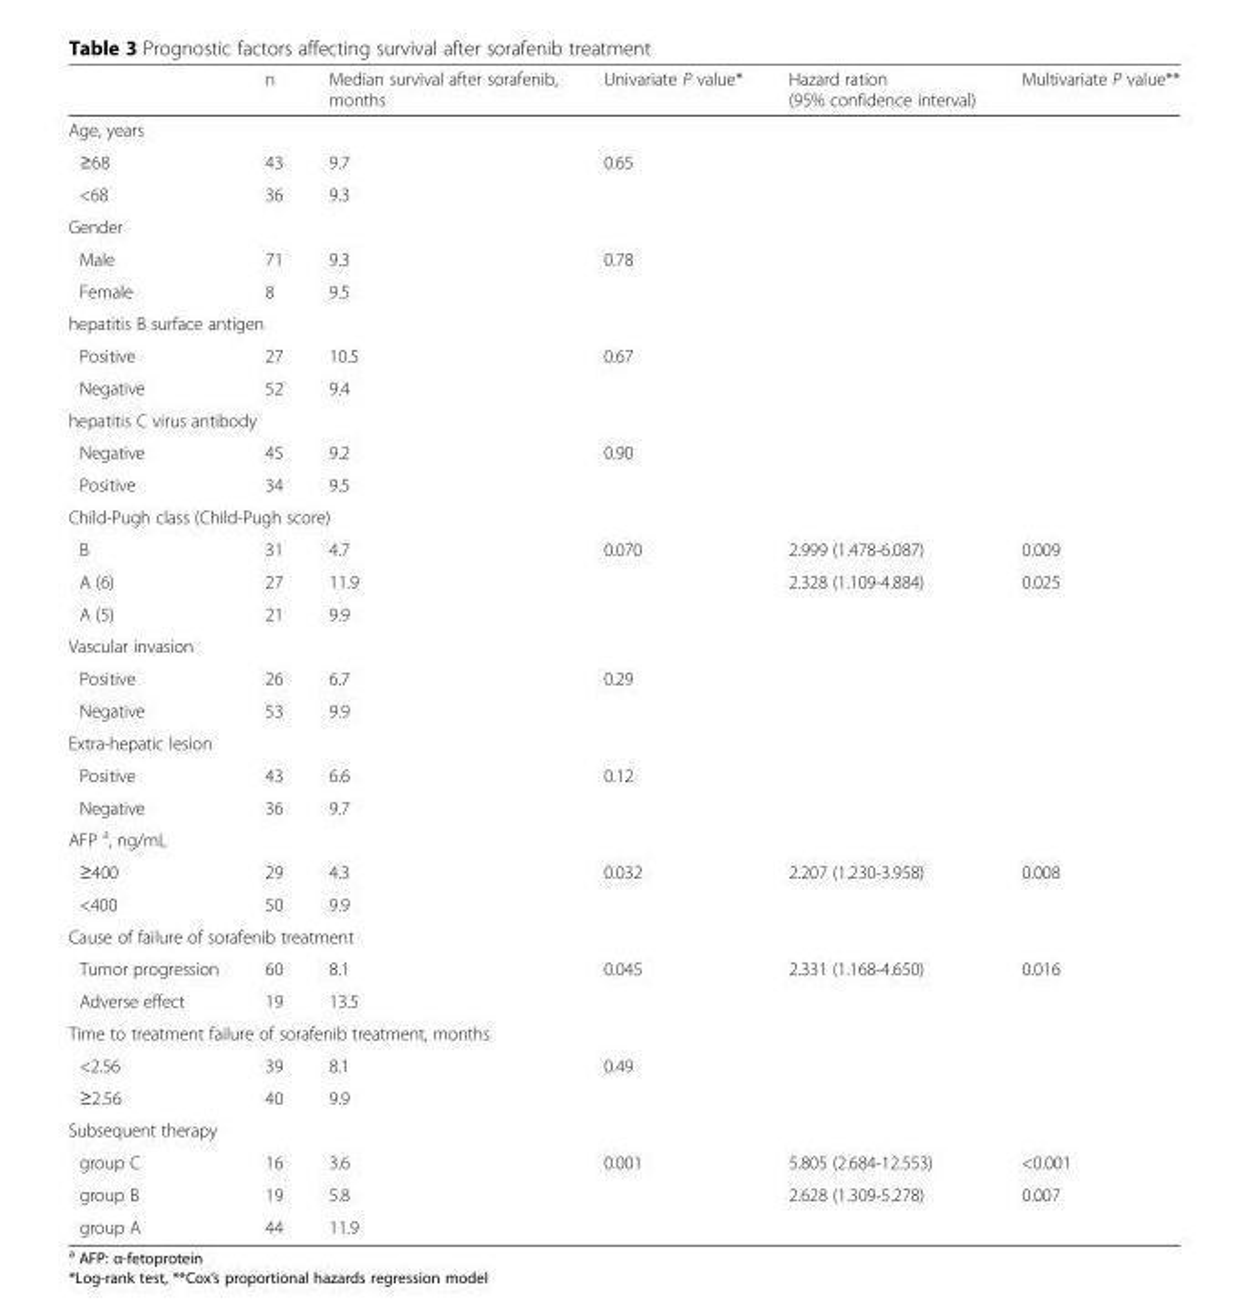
<table><thead><tr><td></td><td>n</td><td>Median survival after sorafenib, months</td><td>Univariate P value*</td><td>Hazard ration (95% confidence interval)</td><td>Multivariate P value**</td></tr></thead><tbody><tr><td colspan="6">Age, years</td></tr><tr><td>≥68</td><td>43</td><td>9.7</td><td>0.65</td><td></td><td></td></tr><tr><td>&lt;68</td><td>36</td><td>9.3</td><td></td><td></td><td></td></tr><tr><td colspan="6">Gender</td></tr><tr><td>Male</td><td>71</td><td>9.3</td><td>0.78</td><td></td><td></td></tr><tr><td>Female</td><td>8</td><td>9.5</td><td></td><td></td><td></td></tr><tr><td colspan="6">hepatitis B surface antigen</td></tr><tr><td>Positive</td><td>27</td><td>10.5</td><td>0.67</td><td></td><td></td></tr><tr><td>Negative</td><td>52</td><td>9.4</td><td></td><td></td><td></td></tr><tr><td colspan="6">hepatitis C virus antibody</td></tr><tr><td>Negative</td><td>45</td><td>9.2</td><td>0.90</td><td></td><td></td></tr><tr><td>Positive</td><td>34</td><td>9.5</td><td></td><td></td><td></td></tr><tr><td colspan="6">Child-Pugh class (Child-Pugh score)</td></tr><tr><td>B</td><td>31</td><td>4.7</td><td>0.070</td><td>2.999 (1.478-6.087)</td><td>0.009</td></tr><tr><td>A (6)</td><td>27</td><td>11.9</td><td></td><td>2.328 (1.109-4.884)</td><td>0.025</td></tr><tr><td>A (5)</td><td>21</td><td>9.9</td><td></td><td></td><td></td></tr><tr><td colspan="6">Vascular invasion</td></tr><tr><td>Positive</td><td>26</td><td>6.7</td><td>0.29</td><td></td><td></td></tr><tr><td>Negative</td><td>53</td><td>9.9</td><td></td><td></td><td></td></tr><tr><td colspan="6">Extra-hepatic lesion</td></tr><tr><td>Positive</td><td>43</td><td>6.6</td><td>0.12</td><td></td><td></td></tr><tr><td>Negative</td><td>36</td><td>9.7</td><td></td><td></td><td></td></tr><tr><td colspan="6">AFP <sup>a</sup>, ng/mL</td></tr><tr><td>≥400</td><td>29</td><td>4.3</td><td>0.032</td><td>2.207 (1.230-3.958)</td><td>0.008</td></tr><tr><td>&lt;400</td><td>50</td><td>9.9</td><td></td><td></td><td></td></tr><tr><td colspan="6">Cause of failure of sorafenib treatment</td></tr><tr><td>Tumor progression</td><td>60</td><td>8.1</td><td>0.045</td><td>2.331 (1.168-4.650)</td><td>0.016</td></tr><tr><td>Adverse effect</td><td>19</td><td>13.5</td><td></td><td></td><td></td></tr><tr><td colspan="6">Time to treatment failure of sorafenib treatment, months</td></tr><tr><td>&lt;2.56</td><td>39</td><td>8.1</td><td>0.49</td><td></td><td></td></tr><tr><td>≥2.56</td><td>40</td><td>9.9</td><td></td><td></td><td></td></tr><tr><td colspan="6">Subsequent therapy</td></tr><tr><td>group C</td><td>16</td><td>3.6</td><td>0.001</td><td>5.805 (2.684-12.553)</td><td>&lt;0.001</td></tr><tr><td>group B</td><td>19</td><td>5.8</td><td></td><td>2.628 (1.309-5.278)</td><td>0.007</td></tr><tr><td>group A</td><td>44</td><td>11.9</td><td></td><td></td><td></td></tr></tbody></table>